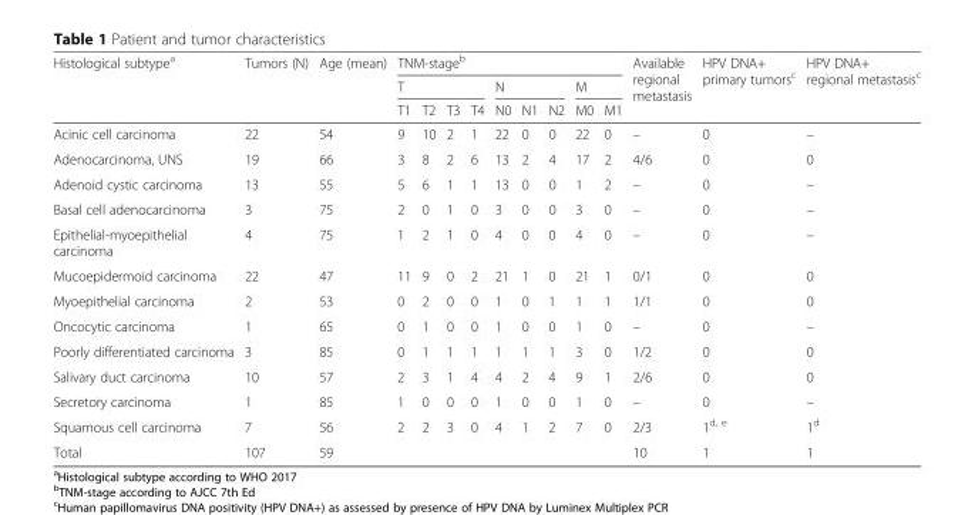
<table><thead><tr><td rowspan="3">Histological subtype<sup>a</sup></td><td rowspan="3">Tumors (N)</td><td rowspan="3">Age (mean)</td><td colspan="9">TNM-stage<sup>b</sup></td><td rowspan="3">Available regional metastasis</td><td rowspan="3">HPV DNA+ primary tumors<sup>c</sup></td><td rowspan="3">HPV DNA+ regional metastasis<sup>c</sup></td></tr><tr><td colspan="4">T</td><td colspan="3">N</td><td colspan="2">M</td></tr><tr><td>T1</td><td>T2</td><td>T3</td><td>T4</td><td>N0</td><td>N1</td><td>N2</td><td>M0</td><td>M1</td></tr></thead><tbody><tr><td>Acinic cell carcinoma</td><td>22</td><td>54</td><td>9</td><td>10</td><td>2</td><td>1</td><td>22</td><td>0</td><td>0</td><td>22</td><td>0</td><td>–</td><td>0</td><td>–</td></tr><tr><td>Adenocarcinoma, UNS</td><td>19</td><td>66</td><td>3</td><td>8</td><td>2</td><td>6</td><td>13</td><td>2</td><td>4</td><td>17</td><td>2</td><td>4/6</td><td>0</td><td>0</td></tr><tr><td>Adenoid cystic carcinoma</td><td>13</td><td>55</td><td>5</td><td>6</td><td>1</td><td>1</td><td>13</td><td>0</td><td>0</td><td>1</td><td>2</td><td>–</td><td>0</td><td>–</td></tr><tr><td>Basal cell adenocarcinoma</td><td>3</td><td>75</td><td>2</td><td>0</td><td>1</td><td>0</td><td>3</td><td>0</td><td>0</td><td>3</td><td>0</td><td>–</td><td>0</td><td>–</td></tr><tr><td>Epithelial-myoepithelial carcinoma</td><td>4</td><td>75</td><td>1</td><td>2</td><td>1</td><td>0</td><td>4</td><td>0</td><td>0</td><td>4</td><td>0</td><td>–</td><td>0</td><td>–</td></tr><tr><td>Mucoepidermoid carcinoma</td><td>22</td><td>47</td><td>11</td><td>9</td><td>0</td><td>2</td><td>21</td><td>1</td><td>0</td><td>21</td><td>1</td><td>0/1</td><td>0</td><td>0</td></tr><tr><td>Myoepithelial carcinoma</td><td>2</td><td>53</td><td>0</td><td>2</td><td>0</td><td>0</td><td>1</td><td>0</td><td>1</td><td>1</td><td>1</td><td>1/1</td><td>0</td><td>0</td></tr><tr><td>Oncocytic carcinoma</td><td>1</td><td>65</td><td>0</td><td>1</td><td>0</td><td>0</td><td>1</td><td>0</td><td>0</td><td>1</td><td>0</td><td>–</td><td>0</td><td>–</td></tr><tr><td>Poorly differentiated carcinoma</td><td>3</td><td>85</td><td>0</td><td>1</td><td>1</td><td>1</td><td>1</td><td>1</td><td>1</td><td>3</td><td>0</td><td>1/2</td><td>0</td><td>0</td></tr><tr><td>Salivary duct carcinoma</td><td>10</td><td>57</td><td>2</td><td>3</td><td>1</td><td>4</td><td>4</td><td>2</td><td>4</td><td>9</td><td>1</td><td>2/6</td><td>0</td><td>0</td></tr><tr><td>Secretory carcinoma</td><td>1</td><td>85</td><td>1</td><td>0</td><td>0</td><td>0</td><td>1</td><td>0</td><td>0</td><td>1</td><td>0</td><td>–</td><td>0</td><td>–</td></tr><tr><td>Squamous cell carcinoma</td><td>7</td><td>56</td><td>2</td><td>2</td><td>3</td><td>0</td><td>4</td><td>1</td><td>2</td><td>7</td><td>0</td><td>2/3</td><td>1<sup>d, e</sup></td><td>1<sup>d</sup></td></tr><tr><td>Total</td><td>107</td><td>59</td><td></td><td></td><td></td><td></td><td></td><td></td><td></td><td></td><td></td><td>10</td><td>1</td><td>1</td></tr></tbody></table>